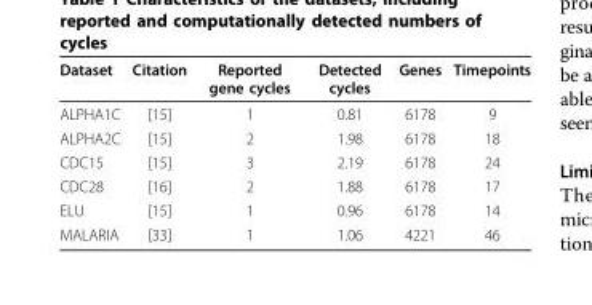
<table><thead><tr><td>Dataset</td><td>Citation</td><td>Reported gene cycles</td><td>Detected cycles</td><td>Genes</td><td>Timepoints</td></tr></thead><tbody><tr><td>ALPHA1C</td><td>[15]</td><td>1</td><td>0.81</td><td>6178</td><td>9</td></tr><tr><td>ALPHA2C</td><td>[15]</td><td>2</td><td>1.98</td><td>6178</td><td>18</td></tr><tr><td>CDC15</td><td>[15]</td><td>3</td><td>2.19</td><td>6178</td><td>24</td></tr><tr><td>CDC28</td><td>[16]</td><td>2</td><td>1.88</td><td>6178</td><td>17</td></tr><tr><td>ELU</td><td>[15]</td><td>1</td><td>0.96</td><td>6178</td><td>14</td></tr><tr><td>MALARIA</td><td>[33]</td><td>1</td><td>1.06</td><td>4221</td><td>46</td></tr></tbody></table>